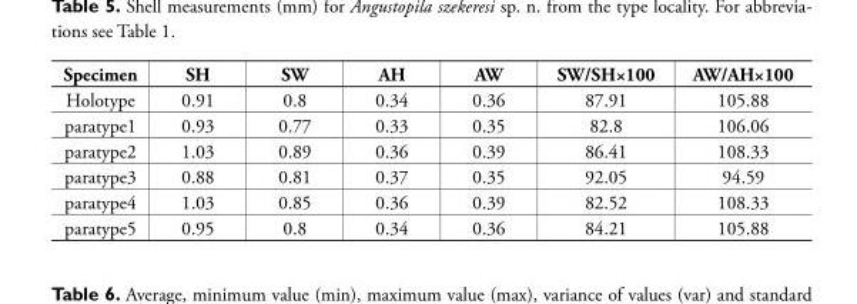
<table><thead><tr><td>Specimen</td><td>SH</td><td>SW</td><td>AH</td><td>AW</td><td>SW/SH×100</td><td>AW/AH×100</td></tr></thead><tbody><tr><td>Holotype</td><td>0.91</td><td>0.8</td><td>0.34</td><td>0.36</td><td>87.91</td><td>105.88</td></tr><tr><td>paratype1</td><td>0.93</td><td>0.77</td><td>0.33</td><td>0.35</td><td>82.8</td><td>106.06</td></tr><tr><td>paratype2</td><td>1.03</td><td>0.89</td><td>0.36</td><td>0.39</td><td>86.41</td><td>108.33</td></tr><tr><td>paratype3</td><td>0.88</td><td>0.81</td><td>0.37</td><td>0.35</td><td>92.05</td><td>94.59</td></tr><tr><td>paratype4</td><td>1.03</td><td>0.85</td><td>0.36</td><td>0.39</td><td>82.52</td><td>108.33</td></tr><tr><td>paratype5</td><td>0.95</td><td>0.8</td><td>0.34</td><td>0.36</td><td>84.21</td><td>105.88</td></tr></tbody></table>